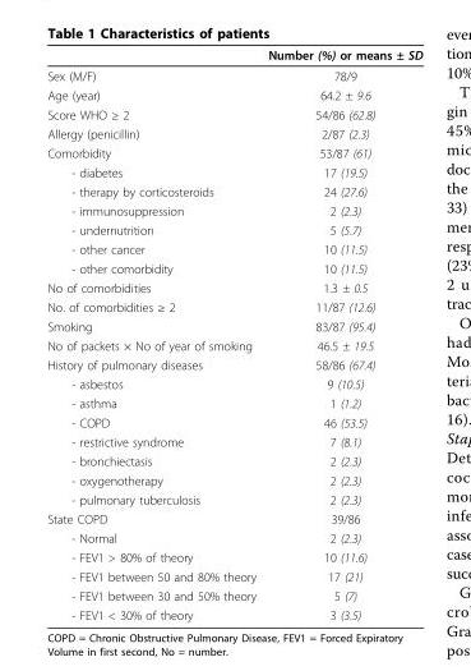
<table><thead><tr><td></td><td>Number (%) or means ± SD</td></tr></thead><tbody><tr><td>Sex (M/F)</td><td>78/9</td></tr><tr><td>Age (year)</td><td>64.2 ± 9.6</td></tr><tr><td>Score WHO ≥ 2</td><td>54/86 (62.8)</td></tr><tr><td>Allergy (penicillin)</td><td>2/87 (2.3)</td></tr><tr><td>Comorbidity</td><td>53/87 (61)</td></tr><tr><td>- diabetes</td><td>17 (19.5)</td></tr><tr><td>- therapy by corticosteroids</td><td>24 (27.6)</td></tr><tr><td>- immunosuppression</td><td>2 (2.3)</td></tr><tr><td>- undernutrition</td><td>5 (5.7)</td></tr><tr><td>- other cancer</td><td>10 (11.5)</td></tr><tr><td>- other comorbidity</td><td>10 (11.5)</td></tr><tr><td>No of comorbidities</td><td>1.3 ± 0.5</td></tr><tr><td>No. of comorbidities ≥ 2</td><td>11/87 (12.6)</td></tr><tr><td>Smoking</td><td>83/87 (95.4)</td></tr><tr><td>No of packets × No of year of smoking</td><td>46.5 ± 19.5</td></tr><tr><td>History of pulmonary diseases</td><td>58/86 (67.4)</td></tr><tr><td>- asbestos</td><td>9 (10.5)</td></tr><tr><td>- asthma</td><td>1 (1.2)</td></tr><tr><td>- COPD</td><td>46 (53.5)</td></tr><tr><td>- restrictive syndrome</td><td>7 (8.1)</td></tr><tr><td>- bronchiectasis</td><td>2 (2.3)</td></tr><tr><td>- oxygenotherapy</td><td>2 (2.3)</td></tr><tr><td>- pulmonary tuberculosis</td><td>2 (2.3)</td></tr><tr><td>State COPD</td><td>39/86</td></tr><tr><td>- Normal</td><td>2 (2.3)</td></tr><tr><td>- FEV1 &gt; 80% of theory</td><td>10 (11.6)</td></tr><tr><td>- FEV1 between 50 and 80% theory</td><td>17 (21)</td></tr><tr><td>- FEV1 between 30 and 50% theory</td><td>5 (7)</td></tr><tr><td>- FEV1 &lt; 30% of theory</td><td>3 (3.5)</td></tr></tbody></table>